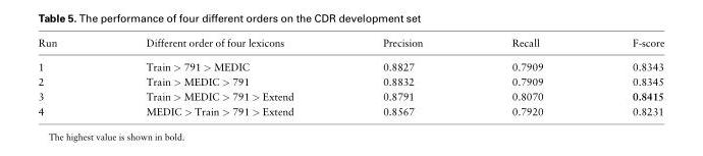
<table><thead><tr><td>Run</td><td>Different order of four lexicons</td><td>Precision</td><td>Recall</td><td>F-score</td></tr></thead><tbody><tr><td>1</td><td>Train &gt; 791 &gt; MEDIC</td><td>0.8827</td><td>0.7909</td><td>0.8343</td></tr><tr><td>2</td><td>Train &gt; MEDIC &gt; 791</td><td>0.8832</td><td>0.7909</td><td>0.8345</td></tr><tr><td>3</td><td>Train &gt; MEDIC &gt; 791 &gt; Extend</td><td>0.8791</td><td>0.8070</td><td>0.8415</td></tr><tr><td>4</td><td>MEDIC &gt; Train &gt; 791 &gt; Extend</td><td>0.8567</td><td>0.7920</td><td>0.8231</td></tr></tbody></table>